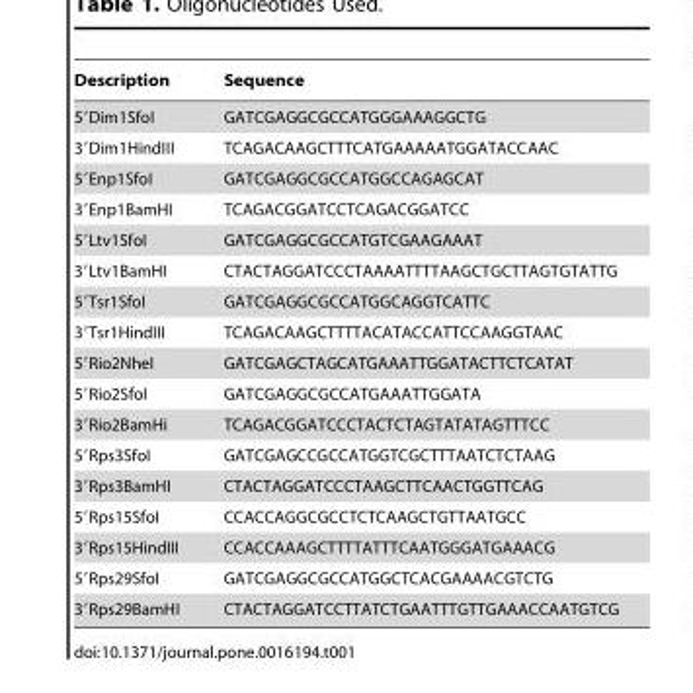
<table><thead><tr><td>Description</td><td>Sequence</td></tr></thead><tbody><tr><td>5′Dim1SfoI</td><td>GATCGAGGCGCCATGGGAAAGGCTG</td></tr><tr><td>3′Dim1HindIII</td><td>TCAGACAAGCTTTCATGAAAAATGGATACCAAC</td></tr><tr><td>5′Enp1SfoI</td><td>GATCGAGGCGCCATGGCCAGAGCAT</td></tr><tr><td>3′Enp1BamHI</td><td>TCAGACGGATCCTCAGACGGATCC</td></tr><tr><td>5′Ltv1SfoI</td><td>GATCGAGGCGCCATGTCGAAGAAAT</td></tr><tr><td>3′Ltv1BamHI</td><td>CTACTAGGATCCCTAAAATTTTAAGCTGCTTAGTGTATTG</td></tr><tr><td>5′Tsr1SfoI</td><td>GATCGAGGCGCCATGGCAGGTCATTC</td></tr><tr><td>3′Tsr1HindIII</td><td>TCAGACAAGCTTTTACATACCATTCCAAGGTAAC</td></tr><tr><td>5′Rio2NheI</td><td>GATCGAGCTAGCATGAAATTGGATACTTCTCATAT</td></tr><tr><td>5′Rio2SfoI</td><td>GATCGAGGCGCCATGAAATTGGATA</td></tr><tr><td>3′Rio2BamHi</td><td>TCAGACGGATCCCTACTCTAGTATATAGTTTCC</td></tr><tr><td>5′Rps3SfoI</td><td>GATCGAGCCGCCATGGTCGCTTTAATCTCTAAG</td></tr><tr><td>3′Rps3BamHI</td><td>CTACTAGGATCCCTAAGCTTCAACTGGTTCAG</td></tr><tr><td>5′Rps15SfoI</td><td>CCACCAGGCGCCTCTCAAGCTGTTAATGCC</td></tr><tr><td>3′Rps15HindIII</td><td>CCACCAAAGCTTTTATTTCAATGGGATGAAACG</td></tr><tr><td>5′Rps29SfoI</td><td>GATCGAGGCGCCATGGCTCACGAAAACGTCTG</td></tr><tr><td>3′Rps29BamHI</td><td>CTACTAGGATCCTTATCTGAATTTGTTGAAACCAATGTCG</td></tr></tbody></table>